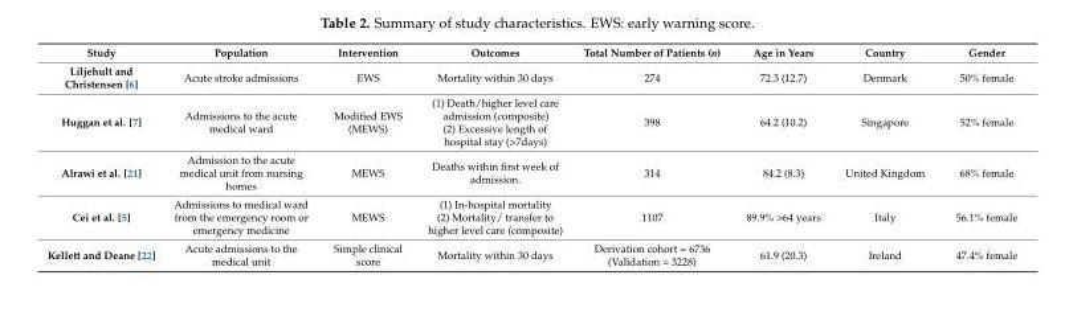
<table><thead><tr><td>Study</td><td>Population</td><td>Intervention</td><td>Outcomes</td><td>Total Number of Patients (n)</td><td>Age in Years</td><td>Country</td><td>Gender</td></tr></thead><tbody><tr><td>Liljehult and Christensen [6]</td><td>Acute stroke admissions</td><td>EWS</td><td>Mortality within 30 days</td><td>274</td><td>72.3 (12.7)</td><td>Denmark</td><td>50% female</td></tr><tr><td>Huggan et al. [7]</td><td>Admissions to the acute medical ward</td><td>Modified EWS (MEWS)</td><td>(1) Death/higher level care admission (composite) (2) Excessive length of hospital stay (&gt;7days)</td><td>398</td><td>64.2 (10.2)</td><td>Singapore</td><td>52% female</td></tr><tr><td>Alrawi et al. [21]</td><td>Admission to the acute medical unit from nursing homes</td><td>MEWS</td><td>Deaths within first week of admission.</td><td>314</td><td>84.2 (8.3)</td><td>United Kingdom</td><td>68% female</td></tr><tr><td>Cei et al. [5]</td><td>Admissions to medical ward from the emergency room or emergency medicine</td><td>MEWS</td><td>(1) In-hospital mortality (2) Mortality/ transfer to higher level care (composite)</td><td>1107</td><td>89.9% &gt;64 years</td><td>Italy</td><td>56.1% female</td></tr><tr><td>Kellett and Deane [22]</td><td>Acute admissions to the medical unit</td><td>Simple clinical score</td><td>Mortality within 30 days</td><td>Derivation cohort = 6736 (Validation = 3228)</td><td>61.9 (20.3)</td><td>Ireland</td><td>47.4% female</td></tr></tbody></table>